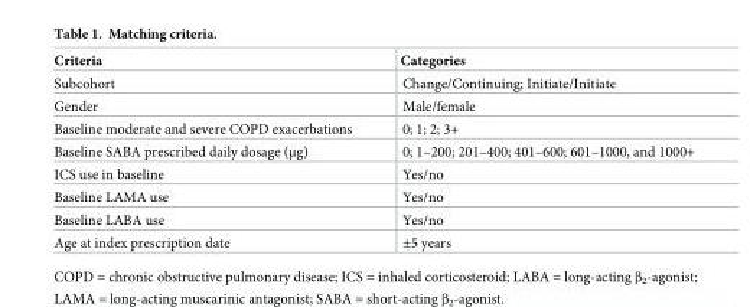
<table><thead><tr><td>Criteria</td><td>Categories</td></tr></thead><tbody><tr><td>Subcohort</td><td>Change/Continuing; Initiate/Initiate</td></tr><tr><td>Gender</td><td>Male/female</td></tr><tr><td>Baseline moderate and severe COPD exacerbations</td><td>0; 1; 2; 3+</td></tr><tr><td>Baseline SABA prescribed daily dosage (μg)</td><td>0; 1–200; 201–400; 401–600; 601–1000, and 1000+</td></tr><tr><td>ICS use in baseline</td><td>Yes/no</td></tr><tr><td>Baseline LAMA use</td><td>Yes/no</td></tr><tr><td>Baseline LABA use</td><td>Yes/no</td></tr><tr><td>Age at index prescription date</td><td>±5 years</td></tr></tbody></table>